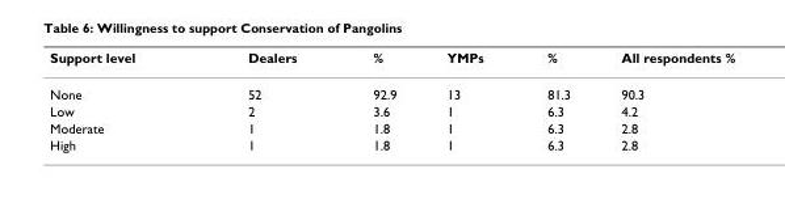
<table><thead><tr><td>Support level</td><td>Dealers</td><td>%</td><td>YMPs</td><td>%</td><td>All respondents %</td></tr></thead><tbody><tr><td>None</td><td>52</td><td>92.9</td><td>13</td><td>81.3</td><td>90.3</td></tr><tr><td>Low</td><td>2</td><td>3.6</td><td>1</td><td>6.3</td><td>4.2</td></tr><tr><td>Moderate</td><td>1</td><td>1.8</td><td>1</td><td>6.3</td><td>2.8</td></tr><tr><td>High</td><td>1</td><td>1.8</td><td>1</td><td>6.3</td><td>2.8</td></tr></tbody></table>